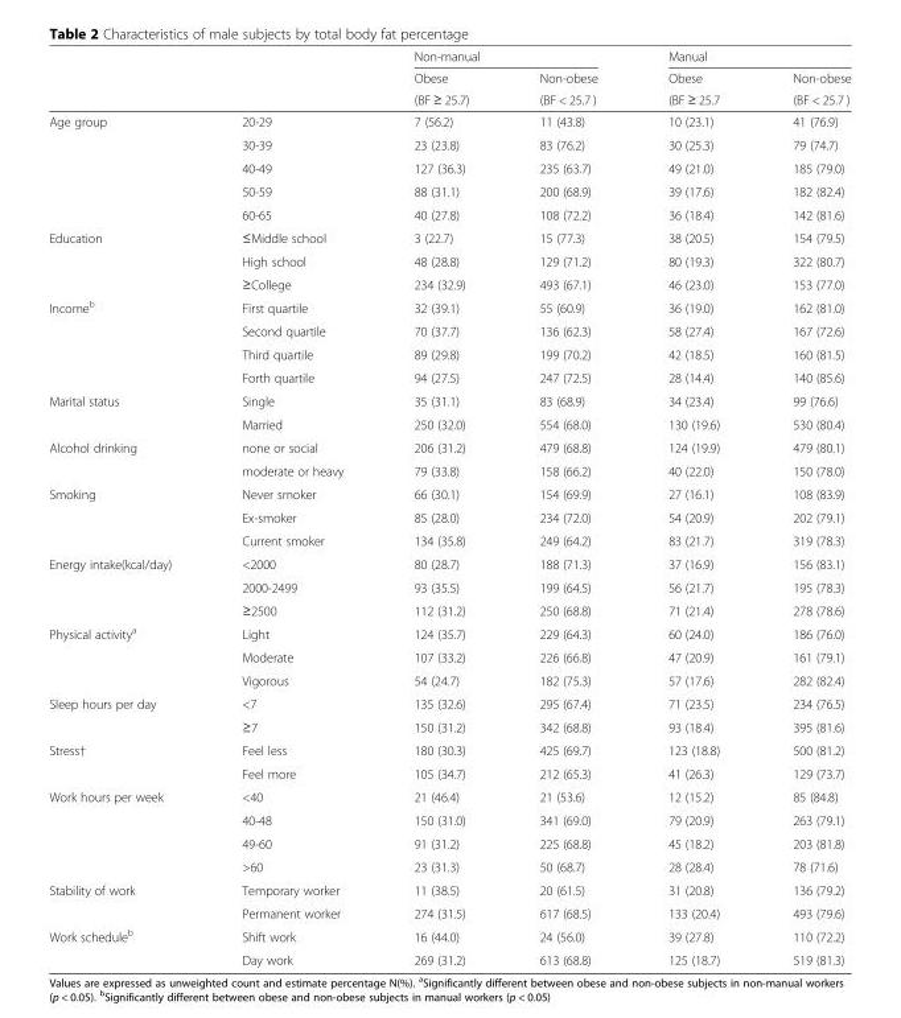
<table><thead><tr><td rowspan="3"></td><td rowspan="3"></td><td colspan="2">Non-manual</td><td colspan="2">Manual</td></tr><tr><td rowspan="2">Obese (BF ≥ 25.7)</td><td rowspan="2">Non-obese (BF &lt; 25.7 )</td><td rowspan="2">Obese (BF ≥ 25.7</td><td rowspan="2">Non-obese (BF &lt; 25.7 )</td></tr><tr></tr></thead><tbody><tr><td rowspan="5">Age group</td><td>20-29</td><td>7 (56.2)</td><td>11 (43.8)</td><td>10 (23.1)</td><td>41 (76.9)</td></tr><tr><td>30-39</td><td>23 (23.8)</td><td>83 (76.2)</td><td>30 (25.3)</td><td>79 (74.7)</td></tr><tr><td>40-49</td><td>127 (36.3)</td><td>235 (63.7)</td><td>49 (21.0)</td><td>185 (79.0)</td></tr><tr><td>50-59</td><td>88 (31.1)</td><td>200 (68.9)</td><td>39 (17.6)</td><td>182 (82.4)</td></tr><tr><td>60-65</td><td>40 (27.8)</td><td>108 (72.2)</td><td>36 (18.4)</td><td>142 (81.6)</td></tr><tr><td rowspan="3">Education</td><td>≤Middle school</td><td>3 (22.7)</td><td>15 (77.3)</td><td>38 (20.5)</td><td>154 (79.5)</td></tr><tr><td>High school</td><td>48 (28.8)</td><td>129 (71.2)</td><td>80 (19.3)</td><td>322 (80.7)</td></tr><tr><td>≥College</td><td>234 (32.9)</td><td>493 (67.1)</td><td>46 (23.0)</td><td>153 (77.0)</td></tr><tr><td rowspan="4">Income<sup>b</sup></td><td>First quartile</td><td>32 (39.1)</td><td>55 (60.9)</td><td>36 (19.0)</td><td>162 (81.0)</td></tr><tr><td>Second quartile</td><td>70 (37.7)</td><td>136 (62.3)</td><td>58 (27.4)</td><td>167 (72.6)</td></tr><tr><td>Third quartile</td><td>89 (29.8)</td><td>199 (70.2)</td><td>42 (18.5)</td><td>160 (81.5)</td></tr><tr><td>Forth quartile</td><td>94 (27.5)</td><td>247 (72.5)</td><td>28 (14.4)</td><td>140 (85.6)</td></tr><tr><td rowspan="2">Marital status</td><td>Single</td><td>35 (31.1)</td><td>83 (68.9)</td><td>34 (23.4)</td><td>99 (76.6)</td></tr><tr><td>Married</td><td>250 (32.0)</td><td>554 (68.0)</td><td>130 (19.6)</td><td>530 (80.4)</td></tr><tr><td rowspan="2">Alcohol drinking</td><td>none or social</td><td>206 (31.2)</td><td>479 (68.8)</td><td>124 (19.9)</td><td>479 (80.1)</td></tr><tr><td>moderate or heavy</td><td>79 (33.8)</td><td>158 (66.2)</td><td>40 (22.0)</td><td>150 (78.0)</td></tr><tr><td rowspan="3">Smoking</td><td>Never smoker</td><td>66 (30.1)</td><td>154 (69.9)</td><td>27 (16.1)</td><td>108 (83.9)</td></tr><tr><td>Ex-smoker</td><td>85 (28.0)</td><td>234 (72.0)</td><td>54 (20.9)</td><td>202 (79.1)</td></tr><tr><td>Current smoker</td><td>134 (35.8)</td><td>249 (64.2)</td><td>83 (21.7)</td><td>319 (78.3)</td></tr><tr><td rowspan="3">Energy intake(kcal/day)</td><td>&lt;2000</td><td>80 (28.7)</td><td>188 (71.3)</td><td>37 (16.9)</td><td>156 (83.1)</td></tr><tr><td>2000-2499</td><td>93 (35.5)</td><td>199 (64.5)</td><td>56 (21.7)</td><td>195 (78.3)</td></tr><tr><td>≥2500</td><td>112 (31.2)</td><td>250 (68.8)</td><td>71 (21.4)</td><td>278 (78.6)</td></tr><tr><td rowspan="3">Physical activity<sup>a</sup></td><td>Light</td><td>124 (35.7)</td><td>229 (64.3)</td><td>60 (24.0)</td><td>186 (76.0)</td></tr><tr><td>Moderate</td><td>107 (33.2)</td><td>226 (66.8)</td><td>47 (20.9)</td><td>161 (79.1)</td></tr><tr><td>Vigorous</td><td>54 (24.7)</td><td>182 (75.3)</td><td>57 (17.6)</td><td>282 (82.4)</td></tr><tr><td rowspan="2">Sleep hours per day</td><td>&lt;7</td><td>135 (32.6)</td><td>295 (67.4)</td><td>71 (23.5)</td><td>234 (76.5)</td></tr><tr><td>≥7</td><td>150 (31.2)</td><td>342 (68.8)</td><td>93 (18.4)</td><td>395 (81.6)</td></tr><tr><td rowspan="2">Stress†</td><td>Feel less</td><td>180 (30.3)</td><td>425 (69.7)</td><td>123 (18.8)</td><td>500 (81.2)</td></tr><tr><td>Feel more</td><td>105 (34.7)</td><td>212 (65.3)</td><td>41 (26.3)</td><td>129 (73.7)</td></tr><tr><td rowspan="4">Work hours per week</td><td>&lt;40</td><td>21 (46.4)</td><td>21 (53.6)</td><td>12 (15.2)</td><td>85 (84.8)</td></tr><tr><td>40-48</td><td>150 (31.0)</td><td>341 (69.0)</td><td>79 (20.9)</td><td>263 (79.1)</td></tr><tr><td>49-60</td><td>91 (31.2)</td><td>225 (68.8)</td><td>45 (18.2)</td><td>203 (81.8)</td></tr><tr><td>&gt;60</td><td>23 (31.3)</td><td>50 (68.7)</td><td>28 (28.4)</td><td>78 (71.6)</td></tr><tr><td rowspan="2">Stability of work</td><td>Temporary worker</td><td>11 (38.5)</td><td>20 (61.5)</td><td>31 (20.8)</td><td>136 (79.2)</td></tr><tr><td>Permanent worker</td><td>274 (31.5)</td><td>617 (68.5)</td><td>133 (20.4)</td><td>493 (79.6)</td></tr><tr><td rowspan="2">Work schedule<sup>b</sup></td><td>Shift work</td><td>16 (44.0)</td><td>24 (56.0)</td><td>39 (27.8)</td><td>110 (72.2)</td></tr><tr><td>Day work</td><td>269 (31.2)</td><td>613 (68.8)</td><td>125 (18.7)</td><td>519 (81.3)</td></tr></tbody></table>